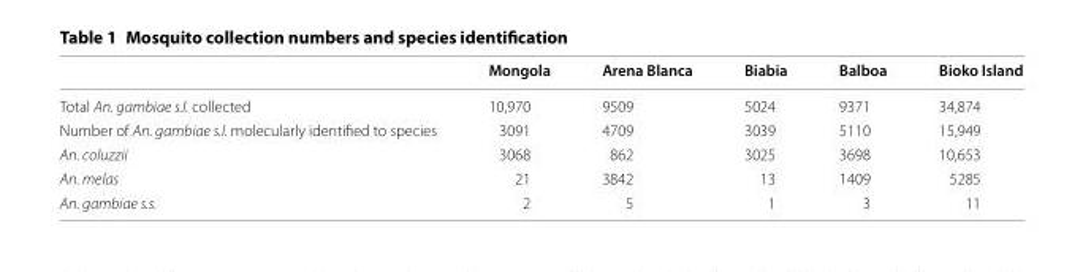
<table><thead><tr><td></td><td>Mongola</td><td>Arena Blanca</td><td>Biabia</td><td>Balboa</td><td>Bioko Island</td></tr></thead><tbody><tr><td>Total An. gambiae s.l. collected</td><td>10,970</td><td>9509</td><td>5024</td><td>9371</td><td>34,874</td></tr><tr><td>Number of An. gambiae s.l. molecularly identified to species</td><td>3091</td><td>4709</td><td>3039</td><td>5110</td><td>15,949</td></tr><tr><td>An. coluzzii</td><td>3068</td><td>862</td><td>3025</td><td>3698</td><td>10,653</td></tr><tr><td>An. melas</td><td>21</td><td>3842</td><td>13</td><td>1409</td><td>5285</td></tr><tr><td>An. gambiae s.s.</td><td>2</td><td>5</td><td>1</td><td>3</td><td>11</td></tr></tbody></table>